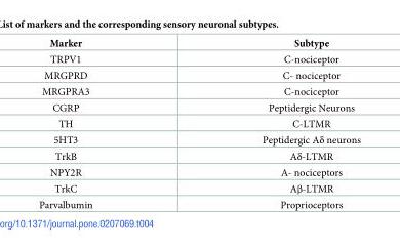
<table><thead><tr><td>Marker</td><td>Subtype</td></tr></thead><tbody><tr><td>TRPV1</td><td>C-nociceptor</td></tr><tr><td>MRGPRD</td><td>C- nociceptor</td></tr><tr><td>MRGPRA3</td><td>C-nociceptor</td></tr><tr><td>CGRP</td><td>Peptidergic Neurons</td></tr><tr><td>TH</td><td>C-LTMR</td></tr><tr><td>5HT3</td><td>Peptidergic Aδ neurons</td></tr><tr><td>TrkB</td><td>Aδ-LTMR</td></tr><tr><td>NPY2R</td><td>A- nociceptors</td></tr><tr><td>TrkC</td><td>Aβ-LTMR</td></tr><tr><td>Parvalbumin</td><td>Proprioceptors</td></tr></tbody></table>